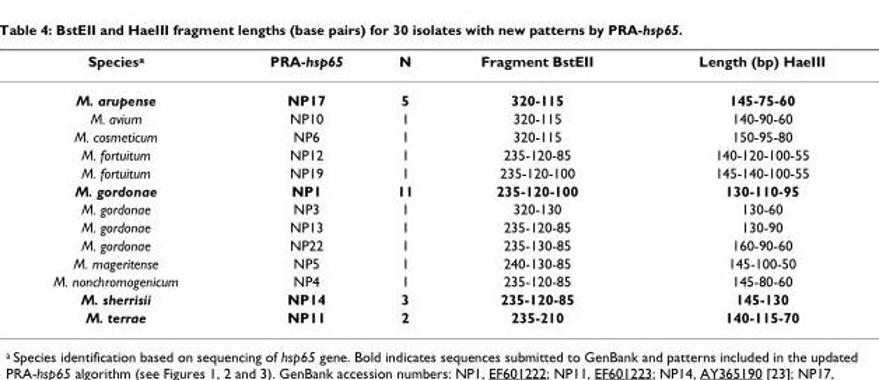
<table><thead><tr><td>Species<sup>a</sup></td><td>PRA-hsp65</td><td>N</td><td>Fragment BstEII</td><td>Length (bp) HaeIII</td></tr></thead><tbody><tr><td>M. arupense</td><td>NP17</td><td>5</td><td>320-115</td><td>145-75-60</td></tr><tr><td>M. avium</td><td>NP10</td><td>1</td><td>320-115</td><td>140-90-60</td></tr><tr><td>M. cosmeticum</td><td>NP6</td><td>1</td><td>320-115</td><td>150-95-80</td></tr><tr><td>M. fortuitum</td><td>NP12</td><td>1</td><td>235-120-85</td><td>140-120-100-55</td></tr><tr><td>M. fortuitum</td><td>NP19</td><td>1</td><td>235-120-100</td><td>145-140-100-55</td></tr><tr><td>M. gordonae</td><td>NP1</td><td>11</td><td>235-120-100</td><td>130-110-95</td></tr><tr><td>M. gordonae</td><td>NP3</td><td>1</td><td>320-130</td><td>130-60</td></tr><tr><td>M. gordonae</td><td>NP13</td><td>1</td><td>235-120-85</td><td>130-90</td></tr><tr><td>M. gordonae</td><td>NP22</td><td>1</td><td>235-130-85</td><td>160-90-60</td></tr><tr><td>M. mageritense</td><td>NP5</td><td>1</td><td>240-130-85</td><td>145-100-50</td></tr><tr><td>M. nonchromogenicum</td><td>NP4</td><td>1</td><td>235-120-85</td><td>145-80-60</td></tr><tr><td>M. sherrisii</td><td>NP14</td><td>3</td><td>235-120-85</td><td>145-130</td></tr><tr><td>M. terrae</td><td>NP11</td><td>2</td><td>235-210</td><td>140-115-70</td></tr></tbody></table>